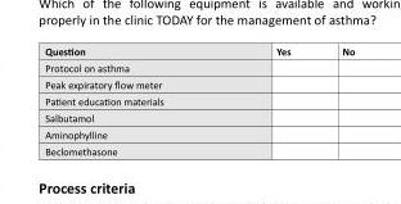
<table><thead><tr><td>Question</td><td>Yes</td><td>No</td></tr></thead><tbody><tr><td colspan="3">Protocol on asthma</td></tr><tr><td colspan="3">Peak expiratory flow meter</td></tr><tr><td colspan="3">Patient education materials</td></tr><tr><td colspan="3">Salbutamol</td></tr><tr><td colspan="3">Aminophylline</td></tr><tr><td>Beclomethasone</td><td></td><td></td></tr></tbody></table>